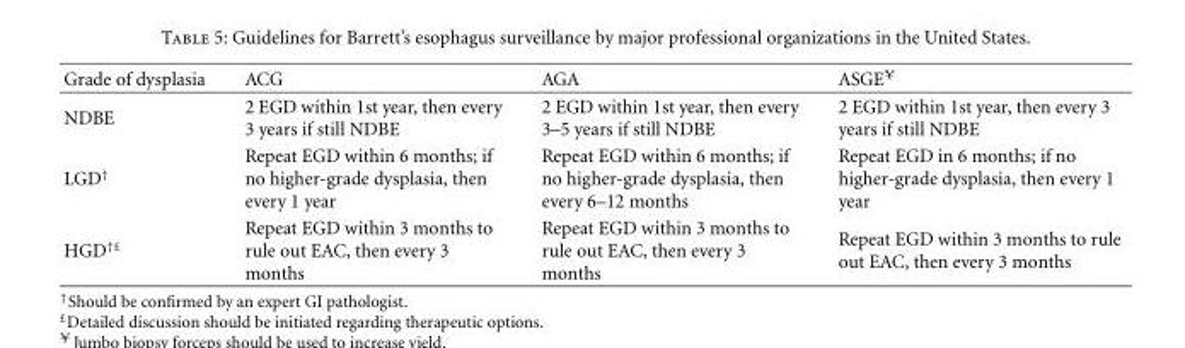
<table><thead><tr><td>Grade of dysplasia</td><td>ACG</td><td>AGA</td><td>ASGE<sup>¥</sup></td></tr></thead><tbody><tr><td>NDBE</td><td>2 EGD within 1st year, then every 3 years if still NDBE</td><td>2 EGD within 1st year, then every 3–5 years if still NDBE</td><td>2 EGD within 1st year, then every 3 years if still NDBE</td></tr><tr><td>LGD<sup>†</sup></td><td>Repeat EGD within 6 months; if no higher-grade dysplasia, then every 1 year</td><td>Repeat EGD within 6 months; if no higher-grade dysplasia, then every 6–12 months</td><td>Repeat EGD in 6 months; if no higher-grade dysplasia, then every 1 year</td></tr><tr><td>HGD<sup>†£</sup></td><td>Repeat EGD within 3 months to rule out EAC, then every 3 months</td><td>Repeat EGD within 3 months to rule out EAC, then every 3 months</td><td>Repeat EGD within 3 months to rule out EAC, then every 3 months</td></tr></tbody></table>